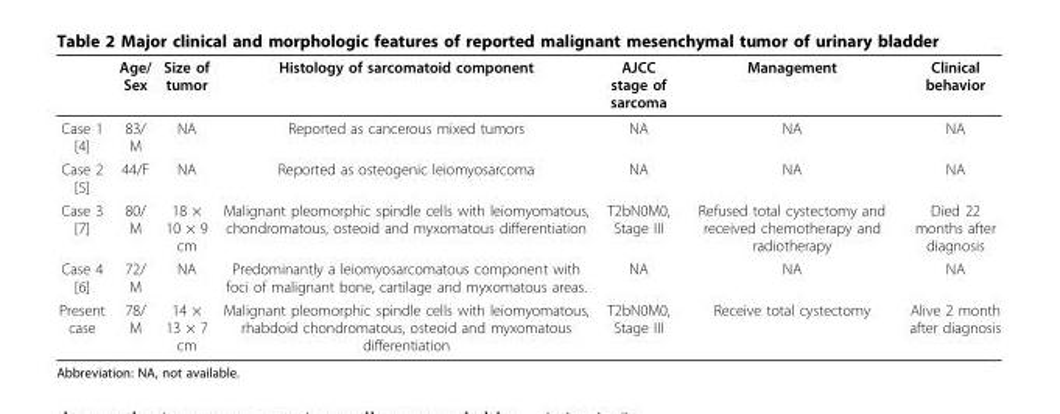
<table><thead><tr><td></td><td>Age/ Sex</td><td>Size of tumor</td><td>Histology of sarcomatoid component</td><td>AJCC stage of sarcoma</td><td>Management</td><td>Clinical behavior</td></tr></thead><tbody><tr><td>Case 1 [4]</td><td>83/ M</td><td>NA</td><td>Reported as cancerous mixed tumors</td><td>NA</td><td>NA</td><td>NA</td></tr><tr><td>Case 2 [5]</td><td>44/F</td><td>NA</td><td>Reported as osteogenic leiomyosarcoma</td><td>NA</td><td>NA</td><td>NA</td></tr><tr><td>Case 3 [7]</td><td>80/ M</td><td>18 × 10 × 9 cm</td><td>Malignant pleomorphic spindle cells with leiomyomatous, chondromatous, osteoid and myxomatous differentiation</td><td>T2bN0M0, Stage III</td><td>Refused total cystectomy and received chemotherapy and radiotherapy</td><td>Died 22 months after diagnosis</td></tr><tr><td>Case 4 [6]</td><td>72/ M</td><td>NA</td><td>Predominantly a leiomyosarcomatous component with foci of malignant bone, cartilage and myxomatous areas.</td><td>NA</td><td>NA</td><td>NA</td></tr><tr><td>Present case</td><td>78/ M</td><td>14 × 13 × 7 cm</td><td>Malignant pleomorphic spindle cells with leiomyomatous, rhabdoid chondromatous, osteoid and myxomatous differentiation</td><td>T2bN0M0, Stage III</td><td>Receive total cystectomy</td><td>Alive 2 month after diagnosis</td></tr></tbody></table>